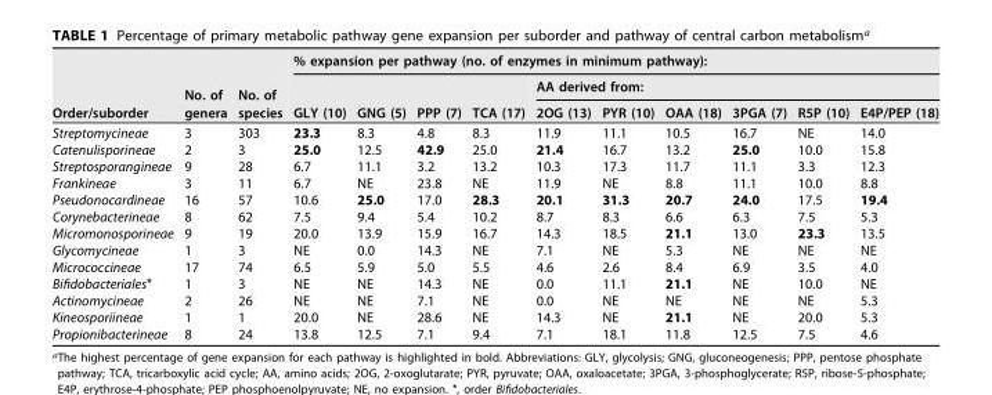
<table><thead><tr><td rowspan="3">Order/suborder</td><td rowspan="3">No. of genera</td><td rowspan="3">No. of species</td><td colspan="10">% expansion per pathway (no. of enzymes in minimum pathway):</td></tr><tr><td rowspan="2">GLY (10)</td><td rowspan="2">GNG (5)</td><td rowspan="2">PPP (7)</td><td rowspan="2">TCA (17)</td><td colspan="6">AA derived from:</td></tr><tr><td>2OG (13)</td><td>PYR (10)</td><td>OAA (18)</td><td>3PGA (7)</td><td>R5P (10)</td><td>E4P/PEP (18)</td></tr></thead><tbody><tr><td>Streptomycineae</td><td>3</td><td>303</td><td>23.3</td><td>8.3</td><td>4.8</td><td>8.3</td><td>11.9</td><td>11.1</td><td>10.5</td><td>16.7</td><td>NE</td><td>14.0</td></tr><tr><td>Catenulisporineae</td><td>2</td><td>3</td><td>25.0</td><td>12.5</td><td>42.9</td><td>25.0</td><td>21.4</td><td>16.7</td><td>13.2</td><td>25.0</td><td>10.0</td><td>15.8</td></tr><tr><td>Streptosporangineae</td><td>9</td><td>28</td><td>6.7</td><td>11.1</td><td>3.2</td><td>13.2</td><td>10.3</td><td>17.3</td><td>11.7</td><td>11.1</td><td>3.3</td><td>12.3</td></tr><tr><td>Frankineae</td><td>3</td><td>11</td><td>6.7</td><td>NE</td><td>23.8</td><td>NE</td><td>11.9</td><td>NE</td><td>8.8</td><td>11.1</td><td>10.0</td><td>8.8</td></tr><tr><td>Pseudonocardineae</td><td>16</td><td>57</td><td>10.6</td><td>25.0</td><td>17.0</td><td>28.3</td><td>20.1</td><td>31.3</td><td>20.7</td><td>24.0</td><td>17.5</td><td>19.4</td></tr><tr><td>Corynebacterineae</td><td>8</td><td>62</td><td>7.5</td><td>9.4</td><td>5.4</td><td>10.2</td><td>8.7</td><td>8.3</td><td>6.6</td><td>6.3</td><td>7.5</td><td>5.3</td></tr><tr><td>Micromonosporineae</td><td>9</td><td>19</td><td>20.0</td><td>13.9</td><td>15.9</td><td>16.7</td><td>14.3</td><td>18.5</td><td>21.1</td><td>13.0</td><td>23.3</td><td>13.5</td></tr><tr><td>Glycomycineae</td><td>1</td><td>3</td><td>NE</td><td>0.0</td><td>14.3</td><td>NE</td><td>7.1</td><td>NE</td><td>5.3</td><td>NE</td><td>NE</td><td>NE</td></tr><tr><td>Micrococcineae</td><td>17</td><td>74</td><td>6.5</td><td>5.9</td><td>5.0</td><td>5.5</td><td>4.6</td><td>2.6</td><td>8.4</td><td>6.9</td><td>3.5</td><td>4.0</td></tr><tr><td>Bifidobacteriales*</td><td>1</td><td>3</td><td>NE</td><td>NE</td><td>14.3</td><td>NE</td><td>0.0</td><td>11.1</td><td>21.1</td><td>NE</td><td>10.0</td><td>NE</td></tr><tr><td>Actinomycineae</td><td>2</td><td>26</td><td>NE</td><td>NE</td><td>7.1</td><td>NE</td><td>0.0</td><td>NE</td><td>NE</td><td>NE</td><td>NE</td><td>5.3</td></tr><tr><td>Kineosporiineae</td><td>1</td><td>1</td><td>20.0</td><td>NE</td><td>28.6</td><td>NE</td><td>14.3</td><td>NE</td><td>21.1</td><td>NE</td><td>20.0</td><td>5.3</td></tr><tr><td>Propionibacterineae</td><td>8</td><td>24</td><td>13.8</td><td>12.5</td><td>7.1</td><td>9.4</td><td>7.1</td><td>18.1</td><td>11.8</td><td>12.5</td><td>7.5</td><td>4.6</td></tr></tbody></table>